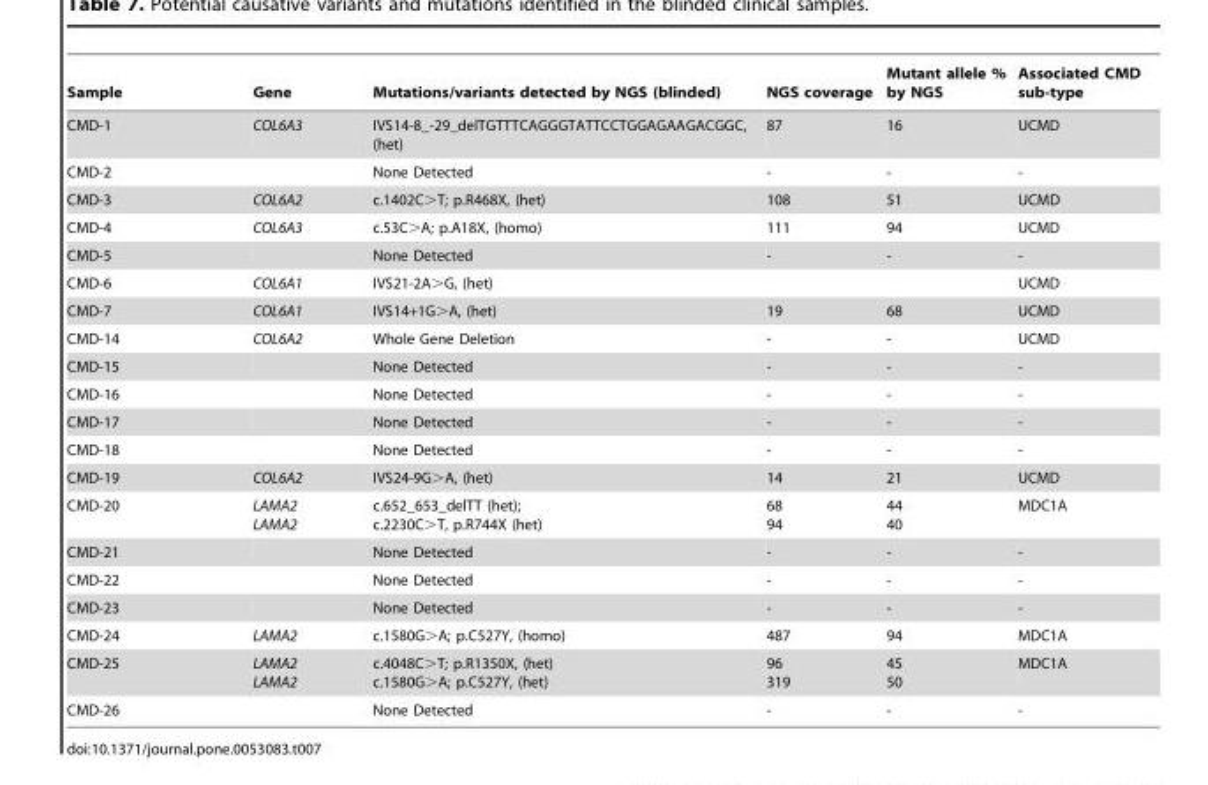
<table><thead><tr><td>Sample</td><td>Gene</td><td>Mutations/variants detected by NGS (blinded)</td><td>NGS coverage</td><td>Mutant allele % by NGS</td><td>Associated CMD sub-type</td></tr></thead><tbody><tr><td>CMD-1</td><td>COL6A3</td><td>IVS14-8_-29_delTGTTTCAGGGTATTCCTGGAGAAGACGGC, (het)</td><td>87</td><td>16</td><td>UCMD</td></tr><tr><td>CMD-2</td><td></td><td>None Detected</td><td>-</td><td>-</td><td>-</td></tr><tr><td>CMD-3</td><td>COL6A2</td><td>c.1402C&gt;T; p.R468X, (het)</td><td>108</td><td>51</td><td>UCMD</td></tr><tr><td>CMD-4</td><td>COL6A3</td><td>c.53C&gt;A; p.A18X, (homo)</td><td>111</td><td>94</td><td>UCMD</td></tr><tr><td>CMD-5</td><td></td><td>None Detected</td><td>-</td><td>-</td><td>-</td></tr><tr><td>CMD-6</td><td>COL6A1</td><td>IVS21-2A&gt;G, (het)</td><td></td><td></td><td>UCMD</td></tr><tr><td>CMD-7</td><td>COL6A1</td><td>IVS14+1G&gt;A, (het)</td><td>19</td><td>68</td><td>UCMD</td></tr><tr><td>CMD-14</td><td>COL6A2</td><td>Whole Gene Deletion</td><td>-</td><td>-</td><td>UCMD</td></tr><tr><td>CMD-15</td><td></td><td>None Detected</td><td>-</td><td>-</td><td>-</td></tr><tr><td>CMD-16</td><td></td><td>None Detected</td><td>-</td><td>-</td><td>-</td></tr><tr><td>CMD-17</td><td></td><td>None Detected</td><td>-</td><td>-</td><td>-</td></tr><tr><td>CMD-18</td><td></td><td>None Detected</td><td>-</td><td>-</td><td>-</td></tr><tr><td>CMD-19</td><td>COL6A2</td><td>IVS24-9G&gt;A, (het)</td><td>14</td><td>21</td><td>UCMD</td></tr><tr><td>CMD-20</td><td>LAMA2 LAMA2</td><td>c.652_653_delTT (het); c.2230C&gt;T, p.R744X (het)</td><td>68 94</td><td>44 40</td><td>MDC1A</td></tr><tr><td>CMD-21</td><td></td><td>None Detected</td><td>-</td><td>-</td><td>-</td></tr><tr><td>CMD-22</td><td></td><td>None Detected</td><td>-</td><td>-</td><td>-</td></tr><tr><td>CMD-23</td><td></td><td>None Detected</td><td>-</td><td>-</td><td>-</td></tr><tr><td>CMD-24</td><td>LAMA2</td><td>c.1580G&gt;A; p.C527Y, (homo)</td><td>487</td><td>94</td><td>MDC1A</td></tr><tr><td>CMD-25</td><td>LAMA2 LAMA2</td><td>c.4048C&gt;T; p.R1350X, (het) c.1580G&gt;A; p.C527Y, (het)</td><td>96 319</td><td>45 50</td><td>MDC1A</td></tr><tr><td>CMD-26</td><td></td><td>None Detected</td><td>-</td><td>-</td><td>-</td></tr></tbody></table>